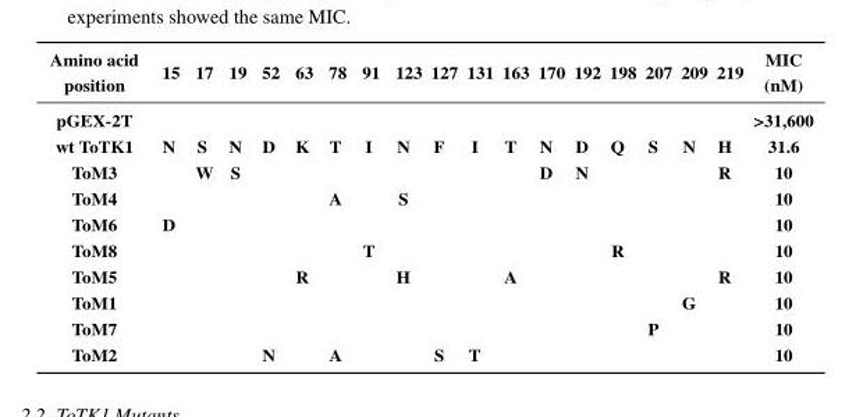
<table><thead><tr><td>Amino acid position</td><td>15</td><td>17</td><td>19</td><td>52</td><td>63</td><td>78</td><td>91</td><td>123</td><td>127</td><td>131</td><td>163</td><td>170</td><td>192</td><td>198</td><td>207</td><td>209</td><td>219</td><td>MIC (nM)</td></tr></thead><tbody><tr><td>pGEX-2T</td><td></td><td></td><td></td><td></td><td></td><td></td><td></td><td></td><td></td><td></td><td></td><td></td><td></td><td></td><td></td><td></td><td></td><td>&gt;31,600</td></tr><tr><td>wt ToTK1</td><td>N</td><td>S</td><td>N</td><td>D</td><td>K</td><td>T</td><td>I</td><td>N</td><td>F</td><td>I</td><td>T</td><td>N</td><td>D</td><td>Q</td><td>S</td><td>N</td><td>H</td><td>31.6</td></tr><tr><td>ToM3</td><td></td><td>W</td><td>S</td><td></td><td></td><td></td><td></td><td></td><td></td><td></td><td></td><td>D</td><td>N</td><td></td><td></td><td></td><td>R</td><td>10</td></tr><tr><td>ToM4</td><td></td><td></td><td></td><td></td><td></td><td>A</td><td></td><td>S</td><td></td><td></td><td></td><td></td><td></td><td></td><td></td><td></td><td></td><td>10</td></tr><tr><td>ToM6</td><td>D</td><td></td><td></td><td></td><td></td><td></td><td></td><td></td><td></td><td></td><td></td><td></td><td></td><td></td><td></td><td></td><td></td><td>10</td></tr><tr><td>ToM8</td><td></td><td></td><td></td><td></td><td></td><td></td><td>T</td><td></td><td></td><td></td><td></td><td></td><td></td><td>R</td><td></td><td></td><td></td><td>10</td></tr><tr><td>ToM5</td><td></td><td></td><td></td><td></td><td>R</td><td></td><td></td><td>H</td><td></td><td></td><td>A</td><td></td><td></td><td></td><td></td><td></td><td>R</td><td>10</td></tr><tr><td>ToM1</td><td></td><td></td><td></td><td></td><td></td><td></td><td></td><td></td><td></td><td></td><td></td><td></td><td></td><td></td><td></td><td>G</td><td></td><td>10</td></tr><tr><td>ToM7</td><td></td><td></td><td></td><td></td><td></td><td></td><td></td><td></td><td></td><td></td><td></td><td></td><td></td><td></td><td>P</td><td></td><td></td><td>10</td></tr><tr><td>ToM2</td><td></td><td></td><td></td><td>N</td><td></td><td>A</td><td></td><td></td><td>S</td><td>T</td><td></td><td></td><td></td><td></td><td></td><td></td><td></td><td>10</td></tr></tbody></table>